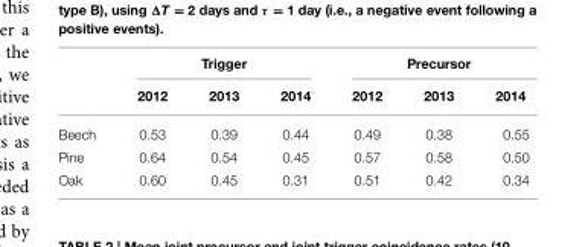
<table><thead><tr><td rowspan="2"></td><td colspan="3">Trigger</td><td colspan="3">Precursor</td></tr><tr><td>2012</td><td>2013</td><td>2014</td><td>2012</td><td>2013</td><td>2014</td></tr></thead><tbody><tr><td>Beech</td><td>0.53</td><td>0.39</td><td>0.44</td><td>0.49</td><td>0.38</td><td>0.55</td></tr><tr><td>Pine</td><td>0.64</td><td>0.54</td><td>0.45</td><td>0.57</td><td>0.58</td><td>0.50</td></tr><tr><td>Oak</td><td>0.60</td><td>0.45</td><td>0.31</td><td>0.51</td><td>0.42</td><td>0.34</td></tr></tbody></table>